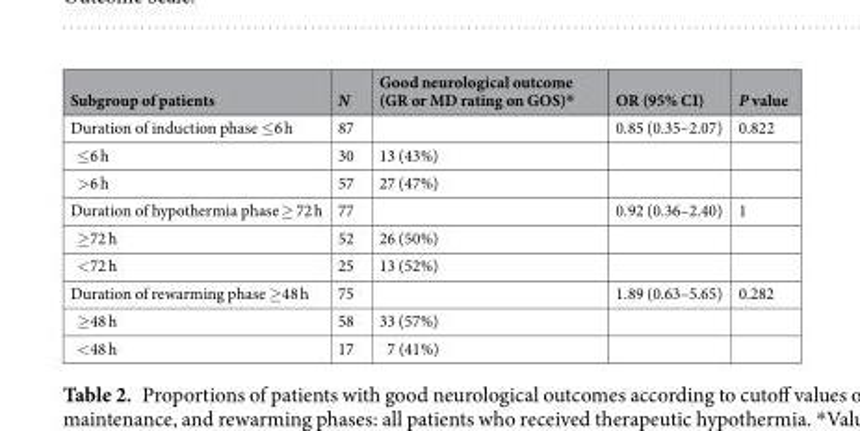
<table><thead><tr><td>Subgroup of patients</td><td>N</td><td>Good neurological outcome (GR or MD rating on GOS)*</td><td>OR (95% CI)</td><td>P value</td></tr></thead><tbody><tr><td>Duration of induction phase ≤6 h</td><td>87</td><td></td><td>0.85 (0.35–2.07)</td><td>0.822</td></tr><tr><td>≤6 h</td><td>30</td><td>13 (43%)</td><td></td><td></td></tr><tr><td>&gt;6 h</td><td>57</td><td>27 (47%)</td><td></td><td></td></tr><tr><td>Duration of hypothermia phase ≥ 72 h</td><td>77</td><td></td><td>0.92 (0.36–2.40)</td><td>1</td></tr><tr><td>≥72 h</td><td>52</td><td>26 (50%)</td><td></td><td></td></tr><tr><td>&lt;72 h</td><td>25</td><td>13 (52%)</td><td></td><td></td></tr><tr><td>Duration of rewarming phase ≥48 h</td><td>75</td><td></td><td>1.89 (0.63–5.65)</td><td>0.282</td></tr><tr><td>≥48 h</td><td>58</td><td>33 (57%)</td><td></td><td></td></tr><tr><td>&lt;48 h</td><td>17</td><td>7 (41%)</td><td></td><td></td></tr></tbody></table>